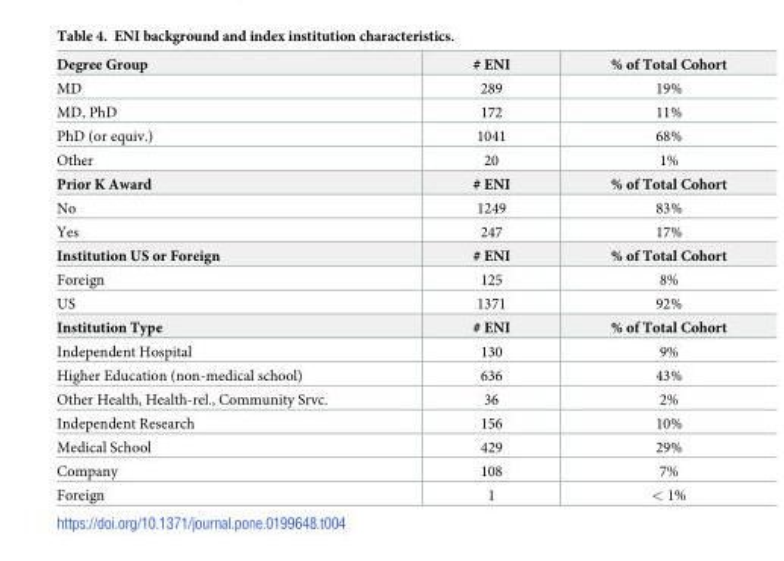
<table><tbody><tr><td>Degree Group</td><td># ENI</td><td>% of Total Cohort</td></tr><tr><td>MD</td><td>289</td><td>19%</td></tr><tr><td>MD, PhD</td><td>172</td><td>11%</td></tr><tr><td>PhD (or equiv.)</td><td>1041</td><td>68%</td></tr><tr><td>Other</td><td>20</td><td>1%</td></tr><tr><td>Prior K Award</td><td># ENI</td><td>% of Total Cohort</td></tr><tr><td>No</td><td>1249</td><td>83%</td></tr><tr><td>Yes</td><td>247</td><td>17%</td></tr><tr><td>Institution US or Foreign</td><td># ENI</td><td>% of Total Cohort</td></tr><tr><td>Foreign</td><td>125</td><td>8%</td></tr><tr><td>US</td><td>1371</td><td>92%</td></tr><tr><td>Institution Type</td><td># ENI</td><td>% of Total Cohort</td></tr><tr><td>Independent Hospital</td><td>130</td><td>9%</td></tr><tr><td>Higher Education (non-medical school)</td><td>636</td><td>43%</td></tr><tr><td>Other Health, Health-rel., Community Srvc.</td><td>36</td><td>2%</td></tr><tr><td>Independent Research</td><td>156</td><td>10%</td></tr><tr><td>Medical School</td><td>429</td><td>29%</td></tr><tr><td>Company</td><td>108</td><td>7%</td></tr><tr><td>Foreign</td><td>1</td><td>&lt; 1%</td></tr></tbody></table>